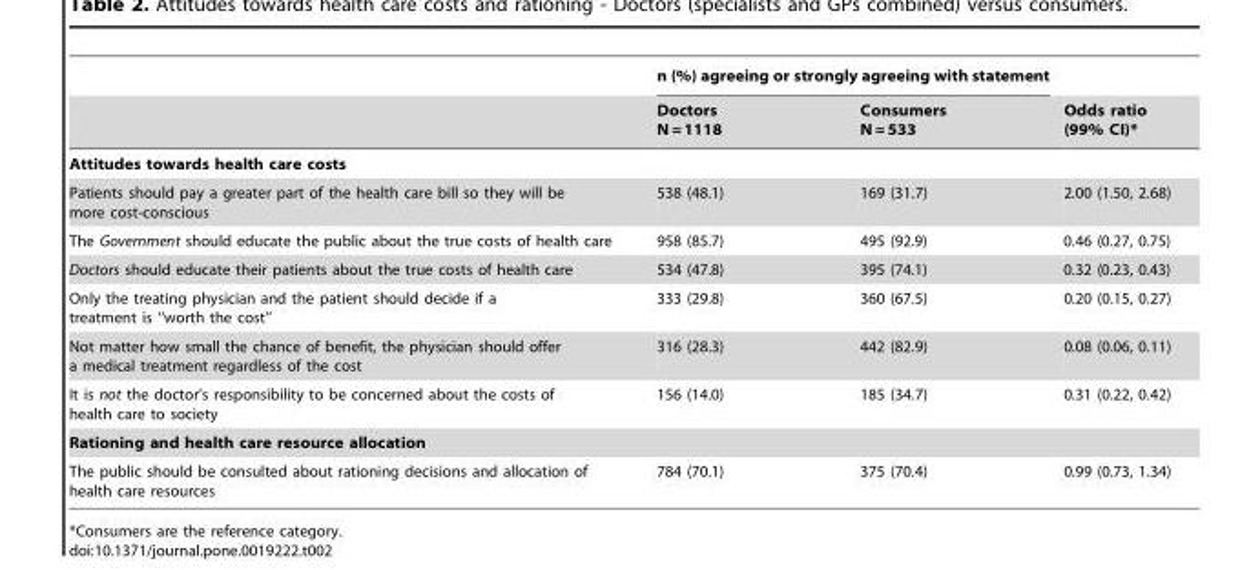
<table><thead><tr><td rowspan="2"></td><td colspan="2">n (%) agreeing or strongly agreeing with statement</td><td rowspan="2">Odds ratio (99% CI)*</td></tr><tr><td>Doctors N = 1118</td><td>Consumers N = 533</td></tr></thead><tbody><tr><td colspan="4">Attitudes towards health care costs</td></tr><tr><td>Patients should pay a greater part of the health care bill so they will be more cost-conscious</td><td>538 (48.1)</td><td>169 (31.7)</td><td>2.00 (1.50, 2.68)</td></tr><tr><td>The Government should educate the public about the true costs of health care</td><td>958 (85.7)</td><td>495 (92.9)</td><td>0.46 (0.27, 0.75)</td></tr><tr><td>Doctors should educate their patients about the true costs of health care</td><td>534 (47.8)</td><td>395 (74.1)</td><td>0.32 (0.23, 0.43)</td></tr><tr><td>Only the treating physician and the patient should decide if a treatment is ‘‘worth the cost’’</td><td>333 (29.8)</td><td>360 (67.5)</td><td>0.20 (0.15, 0.27)</td></tr><tr><td>Not matter how small the chance of benefit, the physician should offer a medical treatment regardless of the cost</td><td>316 (28.3)</td><td>442 (82.9)</td><td>0.08 (0.06, 0.11)</td></tr><tr><td>It is not the doctor’s responsibility to be concerned about the costs of health care to society</td><td>156 (14.0)</td><td>185 (34.7)</td><td>0.31 (0.22, 0.42)</td></tr><tr><td colspan="4">Rationing and health care resource allocation</td></tr><tr><td>The public should be consulted about rationing decisions and allocation of health care resources</td><td>784 (70.1)</td><td>375 (70.4)</td><td>0.99 (0.73, 1.34)</td></tr></tbody></table>